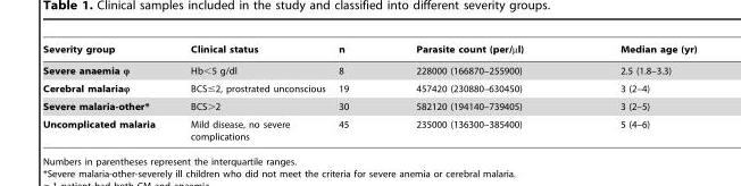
<table><thead><tr><td>Severity group</td><td>Clinical status</td><td>n</td><td>Parasite count (per/µl)</td><td>Median age (yr)</td></tr></thead><tbody><tr><td>Severe anaemia ϕ</td><td>Hb&lt;5 g/dl</td><td>8</td><td>228000 (166870–255900)</td><td>2.5 (1.8–3.3)</td></tr><tr><td>Cerebral malariaϕ</td><td>BCS≤2, prostrated unconscious</td><td>19</td><td>457420 (230880–630450)</td><td>3 (2–4)</td></tr><tr><td>Severe malaria-other*</td><td>BCS&gt;2</td><td>30</td><td>582120 (194140–739405)</td><td>3 (2–5)</td></tr><tr><td>Uncomplicated malaria</td><td>Mild disease, no severe complications</td><td>45</td><td>235000 (136300–385400)</td><td>5 (4–6)</td></tr></tbody></table>